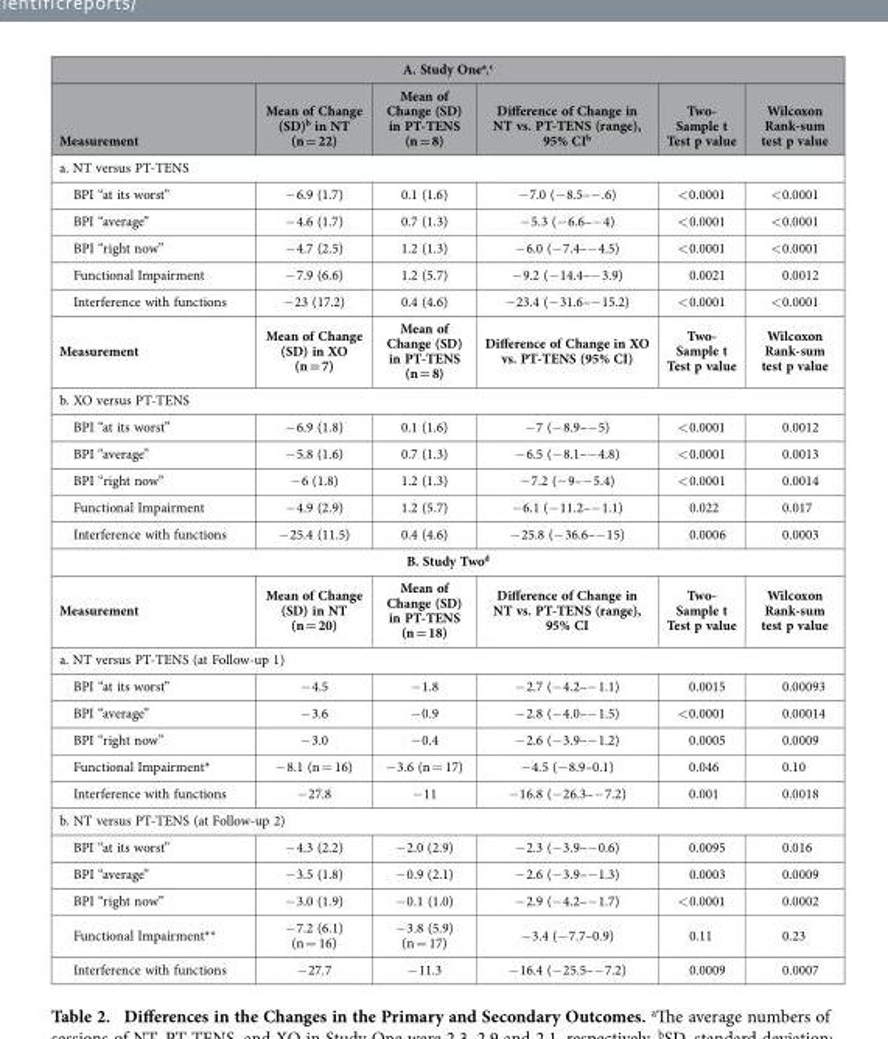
<table><thead><tr><td colspan="6">A. Study One<sup>a</sup>,<sup>c</sup></td></tr><tr><td>Measurement</td><td>Mean of Change (SD)<sup>b</sup> in NT (n = 22)</td><td>Mean of Change (SD) in PT-TENS (n = 8)</td><td>Difference of Change in NT vs. PT-TENS (range), 95% CI<sup>b</sup></td><td>Two- Sample t Test p value</td><td>Wilcoxon Rank-sum test p value</td></tr></thead><tbody><tr><td colspan="6">a. NT versus PT-TENS</td></tr><tr><td>BPI “at its worst”</td><td>− 6.9 (1.7)</td><td>0.1 (1.6)</td><td>− 7.0 (− 8.5–− .6)</td><td>&lt; 0.0001</td><td>&lt; 0.0001</td></tr><tr><td>BPI “average”</td><td>− 4.6 (1.7)</td><td>0.7 (1.3)</td><td>− 5.3 (− 6.6–− 4)</td><td>&lt; 0.0001</td><td>&lt; 0.0001</td></tr><tr><td>BPI “right now”</td><td>− 4.7 (2.5)</td><td>1.2 (1.3)</td><td>− 6.0 (− 7.4–− 4.5)</td><td>&lt; 0.0001</td><td>&lt; 0.0001</td></tr><tr><td>Functional Impairment</td><td>− 7.9 (6.6)</td><td>1.2 (5.7)</td><td>− 9.2 (− 14.4–− 3.9)</td><td>0.0021</td><td>0.0012</td></tr><tr><td>Interference with functions</td><td>− 23 (17.2)</td><td>0.4 (4.6)</td><td>− 23.4 (− 31.6–− 15.2)</td><td>&lt; 0.0001</td><td>&lt; 0.0001</td></tr><tr><td>Measurement</td><td>Mean of Change (SD) in XO (n = 7)</td><td>Mean of Change (SD) in PT-TENS (n = 8)</td><td>Difference of Change in XO vs. PT-TENS (95% CI)</td><td>Two- Sample t Test p value</td><td>Wilcoxon Rank-sum test p value</td></tr><tr><td colspan="6">b. XO versus PT-TENS</td></tr><tr><td>BPI “at its worst”</td><td>− 6.9 (1.8)</td><td>0.1 (1.6)</td><td>− 7 (− 8.9–− 5)</td><td>&lt; 0.0001</td><td>0.0012</td></tr><tr><td>BPI “average”</td><td>− 5.8 (1.6)</td><td>0.7 (1.3)</td><td>− 6.5 (− 8.1–− 4.8)</td><td>&lt; 0.0001</td><td>0.0013</td></tr><tr><td>BPI “right now”</td><td>− 6 (1.8)</td><td>1.2 (1.3)</td><td>− 7.2 (− 9–− 5.4)</td><td>&lt; 0.0001</td><td>0.0014</td></tr><tr><td>Functional Impairment</td><td>− 4.9 (2.9)</td><td>1.2 (5.7)</td><td>− 6.1 (− 11.2–− 1.1)</td><td>0.022</td><td>0.017</td></tr><tr><td>Interference with functions</td><td>− 25.4 (11.5)</td><td>0.4 (4.6)</td><td>− 25.8 (− 36.6–− 15)</td><td>0.0006</td><td>0.0003</td></tr><tr><td colspan="6">B. Study Two<sup>d</sup></td></tr><tr><td>Measurement</td><td>Mean of Change (SD) in NT (n = 20)</td><td>Mean of Change (SD) in PT-TENS (n = 18)</td><td>Difference of Change in NT vs. PT-TENS (range), 95% CI</td><td>Two- Sample t Test p value</td><td>Wilcoxon Rank-sum test p value</td></tr><tr><td colspan="6">a. NT versus PT-TENS (at Follow-up 1)</td></tr><tr><td>BPI “at its worst”</td><td>− 4.5</td><td>− 1.8</td><td>− 2.7 (− 4.2–− 1.1)</td><td>0.0015</td><td>0.00093</td></tr><tr><td>BPI “average”</td><td>− 3.6</td><td>− 0.9</td><td>− 2.8 (− 4.0–− 1.5)</td><td>&lt; 0.0001</td><td>0.00014</td></tr><tr><td>BPI “right now”</td><td>− 3.0</td><td>− 0.4</td><td>− 2.6 (− 3.9–− 1.2)</td><td>0.0005</td><td>0.0009</td></tr><tr><td>Functional Impairment*</td><td>− 8.1 (n = 16)</td><td>− 3.6 (n = 17)</td><td>− 4.5 (− 8.9–0.1)</td><td>0.046</td><td>0.10</td></tr><tr><td>Interference with functions</td><td>− 27.8</td><td>− 11</td><td>− 16.8 (− 26.3–− 7.2)</td><td>0.001</td><td>0.0018</td></tr><tr><td colspan="6">b. NT versus PT-TENS (at Follow-up 2)</td></tr><tr><td>BPI “at its worst”</td><td>− 4.3 (2.2)</td><td>− 2.0 (2.9)</td><td>− 2.3 (− 3.9–− 0.6)</td><td>0.0095</td><td>0.016</td></tr><tr><td>BPI “average”</td><td>− 3.5 (1.8)</td><td>− 0.9 (2.1)</td><td>− 2.6 (− 3.9–− 1.3)</td><td>0.0003</td><td>0.0009</td></tr><tr><td>BPI “right now”</td><td>− 3.0 (1.9)</td><td>− 0.1 (1.0)</td><td>− 2.9 (− 4.2–− 1.7)</td><td>&lt; 0.0001</td><td>0.0002</td></tr><tr><td>Functional Impairment**</td><td>− 7.2 (6.1) (n = 16)</td><td>− 3.8 (5.9) (n = 17)</td><td>− 3.4 (− 7.7–0.9)</td><td>0.11</td><td>0.23</td></tr><tr><td>Interference with functions</td><td>− 27.7</td><td>− 11.3</td><td>− 16.4 (− 25.5–− 7.2)</td><td>0.0009</td><td>0.0007</td></tr></tbody></table>